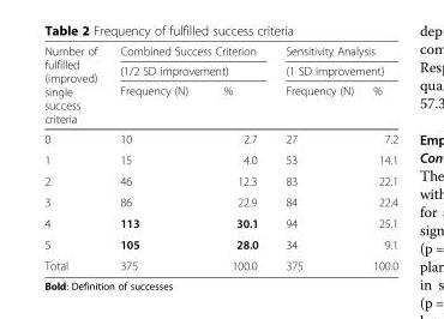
<table><thead><tr><td rowspan="3">Number of fulfilled (improved) single success criteria</td><td rowspan="2" colspan="2">Combined Success Criterion (1/2 SD improvement)</td><td rowspan="2" colspan="2">Sensitivity Analysis (1 SD improvement)</td></tr><tr></tr><tr><td>Frequency (N)</td><td>%</td><td>Frequency (N)</td><td>%</td></tr></thead><tbody><tr><td>0</td><td>10</td><td>2.7</td><td>27</td><td>7.2</td></tr><tr><td>1</td><td>15</td><td>4.0</td><td>53</td><td>14.1</td></tr><tr><td>2</td><td>46</td><td>12.3</td><td>83</td><td>22.1</td></tr><tr><td>3</td><td>86</td><td>22.9</td><td>84</td><td>22.4</td></tr><tr><td>4</td><td>113</td><td>30.1</td><td>94</td><td>25.1</td></tr><tr><td>5</td><td>105</td><td>28.0</td><td>34</td><td>9.1</td></tr><tr><td>Total</td><td>375</td><td>100.0</td><td>375</td><td>100.0</td></tr></tbody></table>